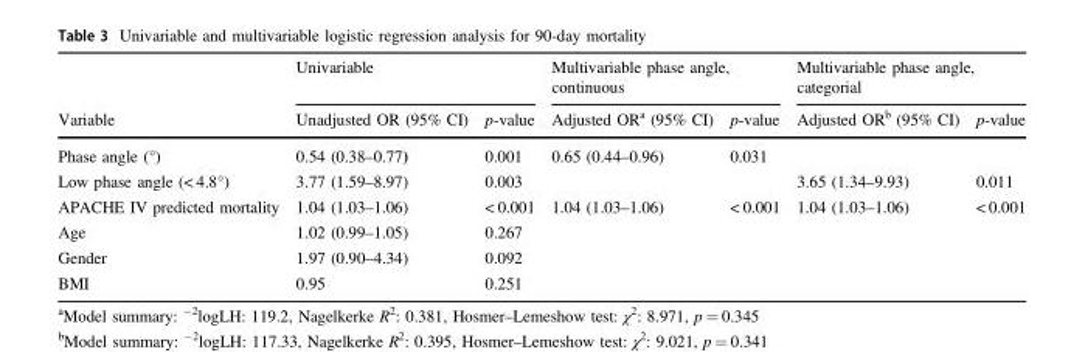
<table><thead><tr><td rowspan="2">Variable</td><td colspan="2">Univariable</td><td colspan="2">Multivariable phase angle, continuous</td><td colspan="2">Multivariable phase angle, categorial</td></tr><tr><td>Unadjusted OR (95% CI)</td><td>p-value</td><td>Adjusted OR<sup>a</sup> (95% CI)</td><td>p-value</td><td>Adjusted OR<sup>b</sup> (95% CI)</td><td>p-value</td></tr></thead><tbody><tr><td>Phase angle (°)</td><td>0.54 (0.38–0.77)</td><td>0.001</td><td>0.65 (0.44–0.96)</td><td>0.031</td><td></td><td></td></tr><tr><td>Low phase angle (&lt; 4.8°)</td><td>3.77 (1.59–8.97)</td><td>0.003</td><td></td><td></td><td>3.65 (1.34–9.93)</td><td>0.011</td></tr><tr><td>APACHE IV predicted mortality</td><td>1.04 (1.03–1.06)</td><td>&lt; 0.001</td><td>1.04 (1.03–1.06)</td><td>&lt; 0.001</td><td>1.04 (1.03–1.06)</td><td>&lt; 0.001</td></tr><tr><td>Age</td><td>1.02 (0.99–1.05)</td><td>0.267</td><td></td><td></td><td></td><td></td></tr><tr><td>Gender</td><td>1.97 (0.90–4.34)</td><td>0.092</td><td></td><td></td><td></td><td></td></tr><tr><td>BMI</td><td>0.95</td><td>0.251</td><td></td><td></td><td></td><td></td></tr></tbody></table>